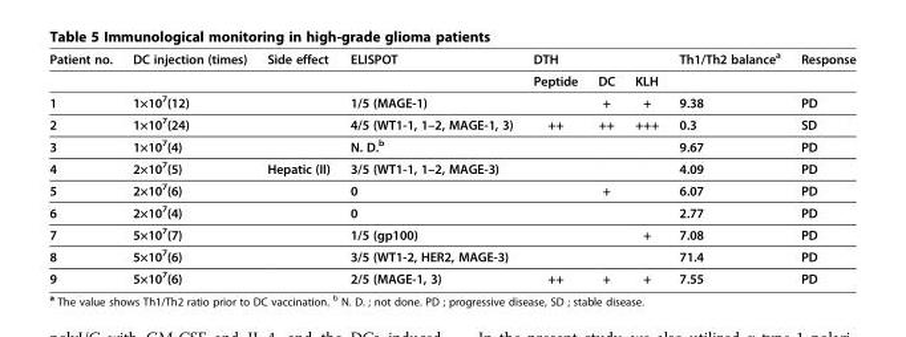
<table><thead><tr><td rowspan="2">Patient no.</td><td rowspan="2">DC injection (times)</td><td rowspan="2">Side effect</td><td rowspan="2">ELISPOT</td><td colspan="3">DTH</td><td rowspan="2">Th1/Th2 balance<sup>a</sup></td><td rowspan="2">Response</td></tr><tr><td>Peptide</td><td>DC</td><td>KLH</td></tr></thead><tbody><tr><td>1</td><td>1×10<sup>7</sup>(12)</td><td></td><td>1/5 (MAGE-1)</td><td></td><td>+</td><td>+</td><td>9.38</td><td>PD</td></tr><tr><td>2</td><td>1×10<sup>7</sup>(24)</td><td></td><td>4/5 (WT1-1, 1–2, MAGE-1, 3)</td><td>++</td><td>++</td><td>+++</td><td>0.3</td><td>SD</td></tr><tr><td>3</td><td>1×10<sup>7</sup>(4)</td><td></td><td>N. D.<sup>b</sup></td><td></td><td></td><td></td><td>9.67</td><td>PD</td></tr><tr><td>4</td><td>2×10<sup>7</sup>(5)</td><td>Hepatic (II)</td><td>3/5 (WT1-1, 1–2, MAGE-3)</td><td></td><td></td><td></td><td>4.09</td><td>PD</td></tr><tr><td>5</td><td>2×10<sup>7</sup>(6)</td><td></td><td>0</td><td></td><td>+</td><td></td><td>6.07</td><td>PD</td></tr><tr><td>6</td><td>2×10<sup>7</sup>(4)</td><td></td><td>0</td><td></td><td></td><td></td><td>2.77</td><td>PD</td></tr><tr><td>7</td><td>5×10<sup>7</sup>(7)</td><td></td><td>1/5 (gp100)</td><td></td><td></td><td>+</td><td>7.08</td><td>PD</td></tr><tr><td>8</td><td>5×10<sup>7</sup>(6)</td><td></td><td>3/5 (WT1-2, HER2, MAGE-3)</td><td></td><td></td><td></td><td>71.4</td><td>PD</td></tr><tr><td>9</td><td>5×10<sup>7</sup>(6)</td><td></td><td>2/5 (MAGE-1, 3)</td><td>++</td><td>+</td><td>+</td><td>7.55</td><td>PD</td></tr></tbody></table>